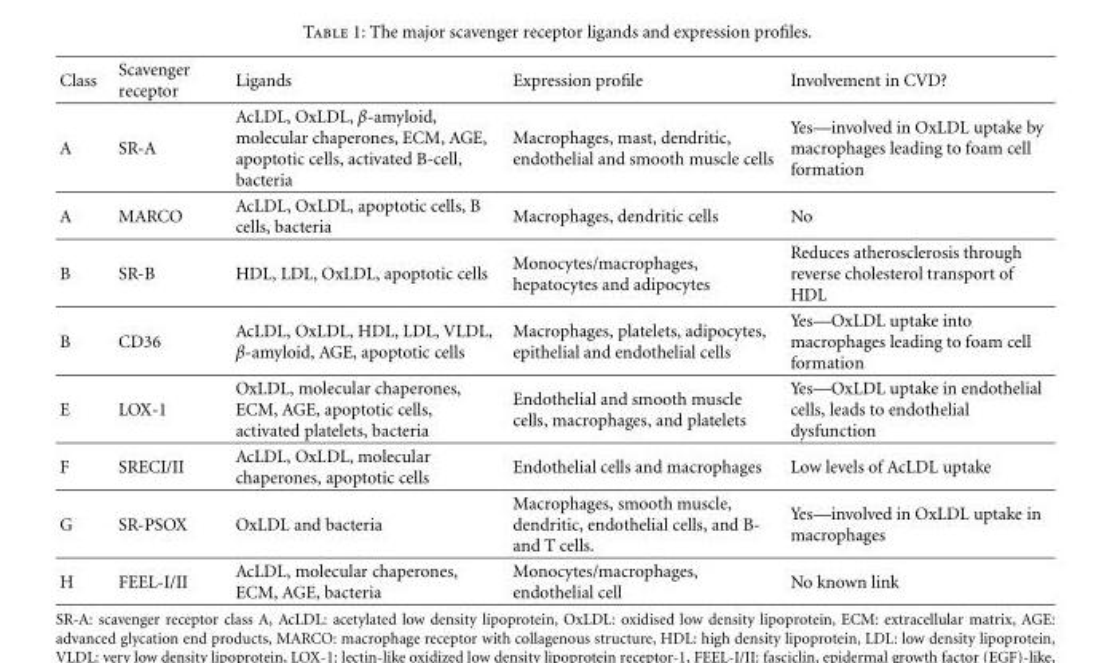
<table><thead><tr><td>Class</td><td>Scavenger receptor</td><td>Ligands</td><td>Expression profile</td><td>Involvement in CVD?</td></tr></thead><tbody><tr><td>A</td><td>SR-A</td><td>AcLDL, OxLDL, β-amyloid, molecular chaperones, ECM, AGE, apoptotic cells, activated B-cell, bacteria</td><td>Macrophages, mast, dendritic, endothelial and smooth muscle cells</td><td>Yes—involved in OxLDL uptake by macrophages leading to foam cell formation</td></tr><tr><td>A</td><td>MARCO</td><td>AcLDL, OxLDL, apoptotic cells, B cells, bacteria</td><td>Macrophages, dendritic cells</td><td>No</td></tr><tr><td>B</td><td>SR-B</td><td>HDL, LDL, OxLDL, apoptotic cells</td><td>Monocytes/macrophages, hepatocytes and adipocytes</td><td>Reduces atherosclerosis through reverse cholesterol transport of HDL</td></tr><tr><td>B</td><td>CD36</td><td>AcLDL, OxLDL, HDL, LDL, VLDL, β-amyloid, AGE, apoptotic cells</td><td>Macrophages, platelets, adipocytes, epithelial and endothelial cells</td><td>Yes—OxLDL uptake into macrophages leading to foam cell formation</td></tr><tr><td>E</td><td>LOX-1</td><td>OxLDL, molecular chaperones, ECM, AGE, apoptotic cells, activated platelets, bacteria</td><td>Endothelial and smooth muscle cells, macrophages, and platelets</td><td>Yes—OxLDL uptake in endothelial cells, leads to endothelial dysfunction</td></tr><tr><td>F</td><td>SRECI/II</td><td>AcLDL, OxLDL, molecular chaperones, apoptotic cells</td><td>Endothelial cells and macrophages</td><td>Low levels of AcLDL uptake</td></tr><tr><td>G</td><td>SR-PSOX</td><td>OxLDL and bacteria</td><td>Macrophages, smooth muscle, dendritic, endothelial cells, and B- and T cells.</td><td>Yes—involved in OxLDL uptake in macrophages</td></tr><tr><td>H</td><td>FEEL-I/II</td><td>AcLDL, molecular chaperones, ECM, AGE, bacteria</td><td>Monocytes/macrophages, endothelial cell</td><td>No known link</td></tr></tbody></table>